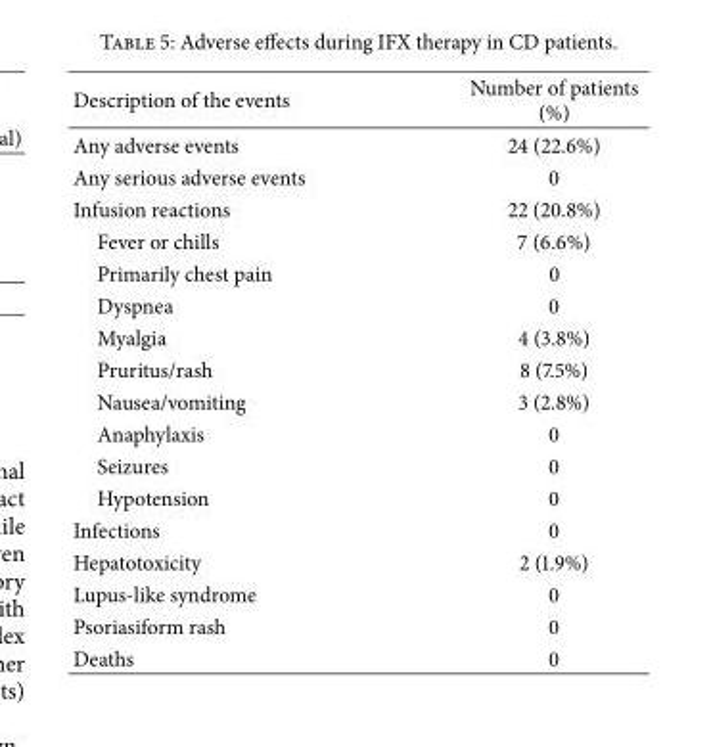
<table><thead><tr><td>Description of the events</td><td>Number of patients (%)</td></tr></thead><tbody><tr><td>Any adverse events</td><td>24 (22.6%)</td></tr><tr><td>Any serious adverse events</td><td>0</td></tr><tr><td>Infusion reactions</td><td>22 (20.8%)</td></tr><tr><td>Fever or chills</td><td>7 (6.6%)</td></tr><tr><td>Primarily chest pain</td><td>0</td></tr><tr><td>Dyspnea</td><td>0</td></tr><tr><td>Myalgia</td><td>4 (3.8%)</td></tr><tr><td>Pruritus/rash</td><td>8 (7.5%)</td></tr><tr><td>Nausea/vomiting</td><td>3 (2.8%)</td></tr><tr><td>Anaphylaxis</td><td>0</td></tr><tr><td>Seizures</td><td>0</td></tr><tr><td>Hypotension</td><td>0</td></tr><tr><td>Infections</td><td>0</td></tr><tr><td>Hepatotoxicity</td><td>2 (1.9%)</td></tr><tr><td>Lupus-like syndrome</td><td>0</td></tr><tr><td>Psoriasiform rash</td><td>0</td></tr><tr><td>Deaths</td><td>0</td></tr></tbody></table>